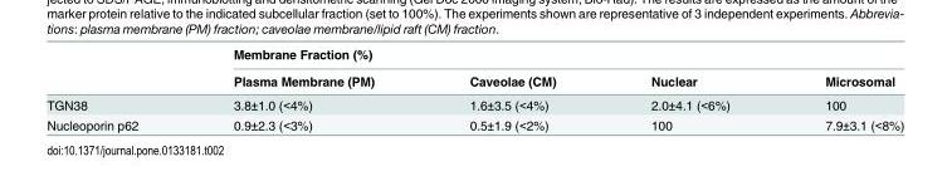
<table><thead><tr><td rowspan="2"></td><td colspan="4">Membrane Fraction (%)</td></tr><tr><td>Plasma Membrane (PM)</td><td>Caveolae (CM)</td><td>Nuclear</td><td>Microsomal</td></tr></thead><tbody><tr><td>TGN38</td><td>3.8±1.0 (&lt;4%)</td><td>1.6±3.5 (&lt;4%)</td><td>2.0±4.1 (&lt;6%)</td><td>100</td></tr><tr><td>Nucleoporin p62</td><td>0.9±2.3 (&lt;3%)</td><td>0.5±1.9 (&lt;2%)</td><td>100</td><td>7.9±3.1 (&lt;8%)</td></tr></tbody></table>